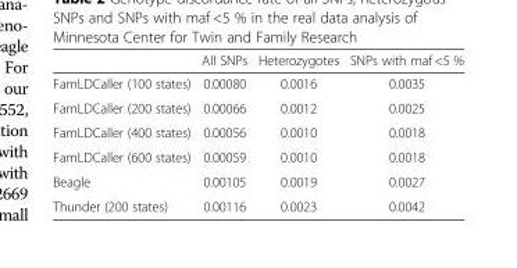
<table><thead><tr><td></td><td>All SNPs</td><td>Heterozygotes</td><td>SNPs with maf &lt;5 %</td></tr></thead><tbody><tr><td>FamLDCaller (100 states)</td><td>0.00080</td><td>0.0016</td><td>0.0035</td></tr><tr><td>FamLDCaller (200 states)</td><td>0.00066</td><td>0.0012</td><td>0.0025</td></tr><tr><td>FamLDCaller (400 states)</td><td>0.00056</td><td>0.0010</td><td>0.0018</td></tr><tr><td>FamLDCaller (600 states)</td><td>0.00059</td><td>0.0010</td><td>0.0018</td></tr><tr><td>Beagle</td><td>0.00105</td><td>0.0019</td><td>0.0027</td></tr><tr><td>Thunder (200 states)</td><td>0.00116</td><td>0.0023</td><td>0.0042</td></tr></tbody></table>